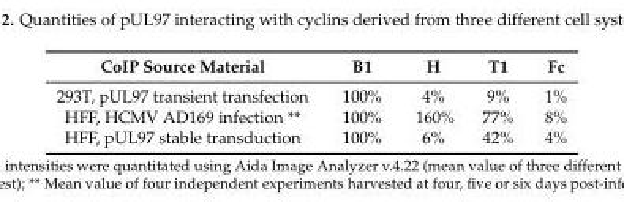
<table><thead><tr><td>CoIP Source Material</td><td>B1</td><td>H</td><td>T1</td><td>Fc</td></tr></thead><tbody><tr><td>293T, pUL97 transient transfection</td><td>100%</td><td>4%</td><td>9%</td><td>1%</td></tr><tr><td>HFF, HCMV AD169 infection **</td><td>100%</td><td>160%</td><td>77%</td><td>8%</td></tr><tr><td>HFF, pUL97 stable transduction</td><td>100%</td><td>6%</td><td>42%</td><td>4%</td></tr></tbody></table>